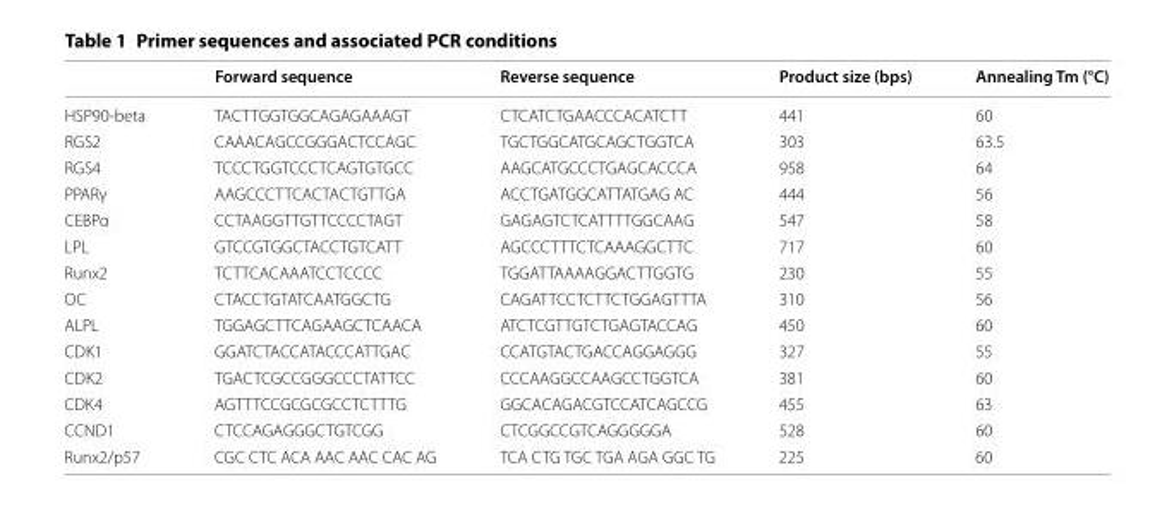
<table><thead><tr><td></td><td>Forward sequence</td><td>Reverse sequence</td><td>Product size (bps)</td><td>Annealing Tm (°C)</td></tr></thead><tbody><tr><td>HSP90-beta</td><td>TACTTGGTGGCAGAGAAAGT</td><td>CTCATCTGAACCCACATCTT</td><td>441</td><td>60</td></tr><tr><td>RGS2</td><td>CAAACAGCCGGGACTCCAGC</td><td>TGCTGGCATGCAGCTGGTCA</td><td>303</td><td>63.5</td></tr><tr><td>RGS4</td><td>TCCCTGGTCCCTCAGTGTGCC</td><td>AAGCATGCCCTGAGCACCCA</td><td>958</td><td>64</td></tr><tr><td>PPARγ</td><td>AAGCCCTTCACTACTGTTGA</td><td>ACCTGATGGCATTATGAG AC</td><td>444</td><td>56</td></tr><tr><td>CEBPα</td><td>CCTAAGGTTGTTCCCCTAGT</td><td>GAGAGTCTCATTTTGGCAAG</td><td>547</td><td>58</td></tr><tr><td>LPL</td><td>GTCCGTGGCTACCTGTCATT</td><td>AGCCCTTTCTCAAAGGCTTC</td><td>717</td><td>60</td></tr><tr><td>Runx2</td><td>TCTTCACAAATCCTCCCC</td><td>TGGATTAAAAGGACTTGGTG</td><td>230</td><td>55</td></tr><tr><td>OC</td><td>CTACCTGTATCAATGGCTG</td><td>CAGATTCCTCTTCTGGAGTTTA</td><td>310</td><td>56</td></tr><tr><td>ALPL</td><td>TGGAGCTTCAGAAGCTCAACA</td><td>ATCTCGTTGTCTGAGTACCAG</td><td>450</td><td>60</td></tr><tr><td>CDK1</td><td>GGATCTACCATACCCATTGAC</td><td>CCATGTACTGACCAGGAGGG</td><td>327</td><td>55</td></tr><tr><td>CDK2</td><td>TGACTCGCCGGGCCCTATTCC</td><td>CCCAAGGCCAAGCCTGGTCA</td><td>381</td><td>60</td></tr><tr><td>CDK4</td><td>AGTTTCCGCGCGCCTCTTTG</td><td>GGCACAGACGTCCATCAGCCG</td><td>455</td><td>63</td></tr><tr><td>CCND1</td><td>CTCCAGAGGGCTGTCGG</td><td>CTCGGCCGTCAGGGGGA</td><td>528</td><td>60</td></tr><tr><td>Runx2/p57</td><td>CGC CTC ACA AAC AAC CAC AG</td><td>TCA CTG TGC TGA AGA GGC TG</td><td>225</td><td>60</td></tr></tbody></table>